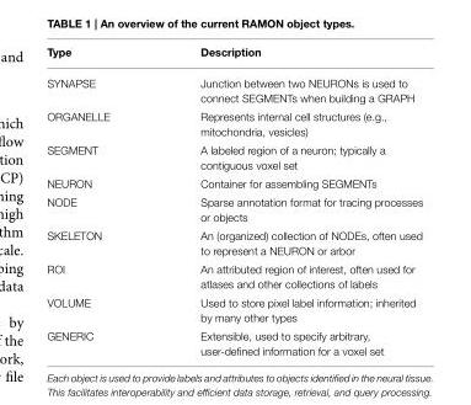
<table><thead><tr><td>Type</td><td>Description</td></tr></thead><tbody><tr><td>SYNAPSE</td><td>Junction between two NEURONs is used to connect SEGMENTs when building a GRAPH</td></tr><tr><td>ORGANELLE</td><td>Represents internal cell structures (e.g., mitochondria, vesicles)</td></tr><tr><td>SEGMENT</td><td>A labeled region of a neuron; typically a contiguous voxel set</td></tr><tr><td>NEURON</td><td>Container for assembling SEGMENTs</td></tr><tr><td>NODE</td><td>Sparse annotation format for tracing processes or objects</td></tr><tr><td>SKELETON</td><td>An (organized) collection of NODEs, often used to represent a NEURON or arbor</td></tr><tr><td>ROI</td><td>An attributed region of interest, often used for atlases and other collections of labels</td></tr><tr><td>VOLUME</td><td>Used to store pixel label information; inherited by many other types</td></tr><tr><td>GENERIC</td><td>Extensible, used to specify arbitrary, user-defined information for a voxel set</td></tr></tbody></table>